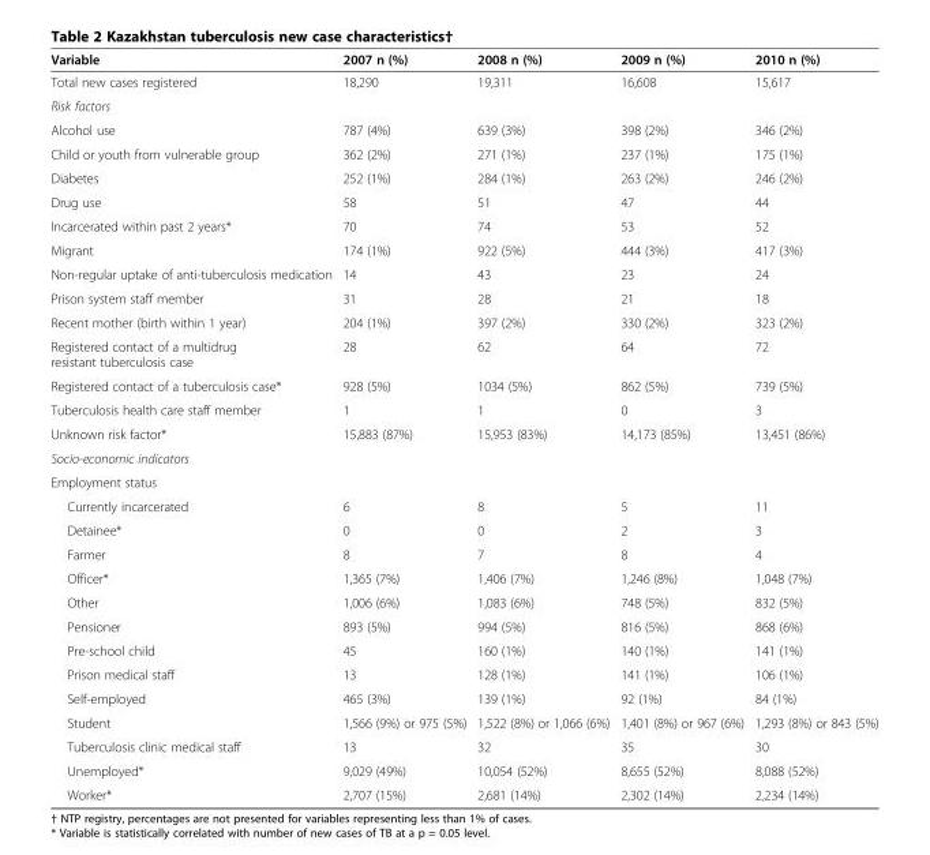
<table><thead><tr><td>Variable</td><td>2007 n (%)</td><td>2008 n (%)</td><td>2009 n (%)</td><td>2010 n (%)</td></tr></thead><tbody><tr><td>Total new cases registered</td><td>18,290</td><td>19,311</td><td>16,608</td><td>15,617</td></tr><tr><td colspan="5">Risk factors</td></tr><tr><td>Alcohol use</td><td>787 (4%)</td><td>639 (3%)</td><td>398 (2%)</td><td>346 (2%)</td></tr><tr><td>Child or youth from vulnerable group</td><td>362 (2%)</td><td>271 (1%)</td><td>237 (1%)</td><td>175 (1%)</td></tr><tr><td>Diabetes</td><td>252 (1%)</td><td>284 (1%)</td><td>263 (2%)</td><td>246 (2%)</td></tr><tr><td>Drug use</td><td>58</td><td>51</td><td>47</td><td>44</td></tr><tr><td>Incarcerated within past 2 years*</td><td>70</td><td>74</td><td>53</td><td>52</td></tr><tr><td>Migrant</td><td>174 (1%)</td><td>922 (5%)</td><td>444 (3%)</td><td>417 (3%)</td></tr><tr><td>Non-regular uptake of anti-tuberculosis medication</td><td>14</td><td>43</td><td>23</td><td>24</td></tr><tr><td>Prison system staff member</td><td>31</td><td>28</td><td>21</td><td>18</td></tr><tr><td>Recent mother (birth within 1 year)</td><td>204 (1%)</td><td>397 (2%)</td><td>330 (2%)</td><td>323 (2%)</td></tr><tr><td>Registered contact of a multidrug resistant tuberculosis case</td><td>28</td><td>62</td><td>64</td><td>72</td></tr><tr><td>Registered contact of a tuberculosis case*</td><td>928 (5%)</td><td>1034 (5%)</td><td>862 (5%)</td><td>739 (5%)</td></tr><tr><td>Tuberculosis health care staff member</td><td>1</td><td>1</td><td>0</td><td>3</td></tr><tr><td>Unknown risk factor*</td><td>15,883 (87%)</td><td>15,953 (83%)</td><td>14,173 (85%)</td><td>13,451 (86%)</td></tr><tr><td colspan="5">Socio-economic indicators</td></tr><tr><td colspan="5">Employment status</td></tr><tr><td>Currently incarcerated</td><td>6</td><td>8</td><td>5</td><td>11</td></tr><tr><td>Detainee*</td><td>0</td><td>0</td><td>2</td><td>3</td></tr><tr><td>Farmer</td><td>8</td><td>7</td><td>8</td><td>4</td></tr><tr><td>Officer*</td><td>1,365 (7%)</td><td>1,406 (7%)</td><td>1,246 (8%)</td><td>1,048 (7%)</td></tr><tr><td>Other</td><td>1,006 (6%)</td><td>1,083 (6%)</td><td>748 (5%)</td><td>832 (5%)</td></tr><tr><td>Pensioner</td><td>893 (5%)</td><td>994 (5%)</td><td>816 (5%)</td><td>868 (6%)</td></tr><tr><td>Pre-school child</td><td>45</td><td>160 (1%)</td><td>140 (1%)</td><td>141 (1%)</td></tr><tr><td>Prison medical staff</td><td>13</td><td>128 (1%)</td><td>141 (1%)</td><td>106 (1%)</td></tr><tr><td>Self-employed</td><td>465 (3%)</td><td>139 (1%)</td><td>92 (1%)</td><td>84 (1%)</td></tr><tr><td>Student</td><td>1,566 (9%) or 975 (5%)</td><td>1,522 (8%) or 1,066 (6%)</td><td>1,401 (8%) or 967 (6%)</td><td>1,293 (8%) or 843 (5%)</td></tr><tr><td>Tuberculosis clinic medical staff</td><td>13</td><td>32</td><td>35</td><td>30</td></tr><tr><td>Unemployed*</td><td>9,029 (49%)</td><td>10,054 (52%)</td><td>8,655 (52%)</td><td>8,088 (52%)</td></tr><tr><td>Worker*</td><td>2,707 (15%)</td><td>2,681 (14%)</td><td>2,302 (14%)</td><td>2,234 (14%)</td></tr></tbody></table>